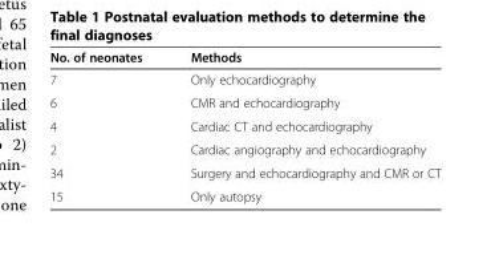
<table><thead><tr><td>No. of neonates</td><td>Methods</td></tr></thead><tbody><tr><td>7</td><td>Only echocardiography</td></tr><tr><td>6</td><td>CMR and echocardiography</td></tr><tr><td>4</td><td>Cardiac CT and echocardiography</td></tr><tr><td>2</td><td>Cardiac angiography and echocardiography</td></tr><tr><td>34</td><td>Surgery and echocardiography and CMR or CT</td></tr><tr><td>15</td><td>Only autopsy</td></tr></tbody></table>